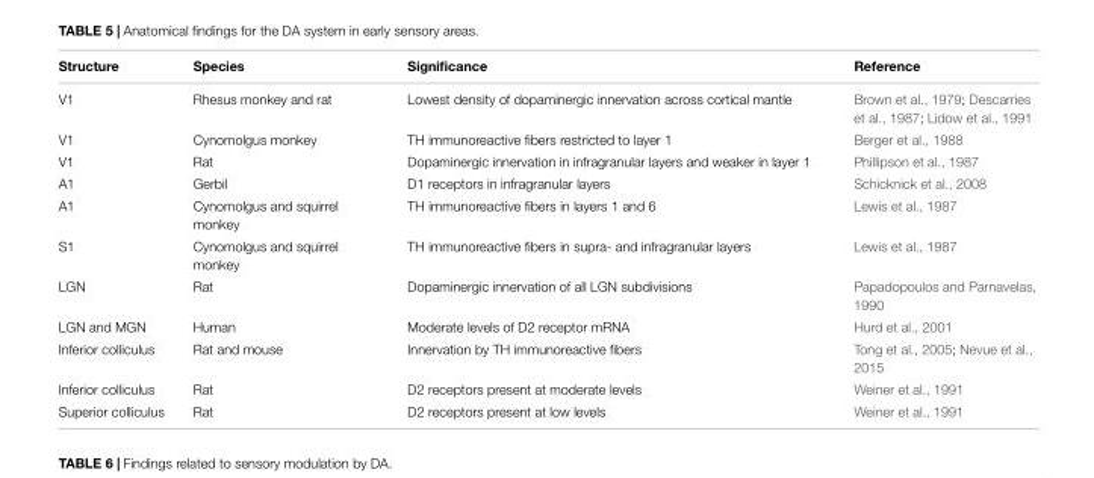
<table><thead><tr><td>Structure</td><td>Species</td><td>Significance</td><td>Reference</td></tr></thead><tbody><tr><td>V1</td><td>Rhesus monkey and rat</td><td>Lowest density of dopaminergic innervation across cortical mantle</td><td>Brown et al., 1979; Descarries et al., 1987; Lidow et al., 1991</td></tr><tr><td>V1</td><td>Cynomolgus monkey</td><td>TH immunoreactive fibers restricted to layer 1</td><td>Berger et al., 1988</td></tr><tr><td>V1</td><td>Rat</td><td>Dopaminergic innervation in infragranular layers and weaker in layer 1</td><td>Phillipson et al., 1987</td></tr><tr><td>A1</td><td>Gerbil</td><td>D1 receptors in infragranular layers</td><td>Schicknick et al., 2008</td></tr><tr><td>A1</td><td>Cynomolgus and squirrel monkey</td><td>TH immunoreactive fibers in layers 1 and 6</td><td>Lewis et al., 1987</td></tr><tr><td>S1</td><td>Cynomolgus and squirrel monkey</td><td>TH immunoreactive fibers in supra- and infragranular layers</td><td>Lewis et al., 1987</td></tr><tr><td>LGN</td><td>Rat</td><td>Dopaminergic innervation of all LGN subdivisions</td><td>Papadopoulos and Parnavelas, 1990</td></tr><tr><td>LGN and MGN</td><td>Human</td><td>Moderate levels of D2 receptor mRNA</td><td>Hurd et al., 2001</td></tr><tr><td>Inferior colliculus</td><td>Rat and mouse</td><td>Innervation by TH immunoreactive fibers</td><td>Tong et al., 2005; Nevue et al., 2015</td></tr><tr><td>Inferior colliculus</td><td>Rat</td><td>D2 receptors present at moderate levels</td><td>Weiner et al., 1991</td></tr><tr><td>Superior colliculus</td><td>Rat</td><td>D2 receptors present at low levels</td><td>Weiner et al., 1991</td></tr></tbody></table>